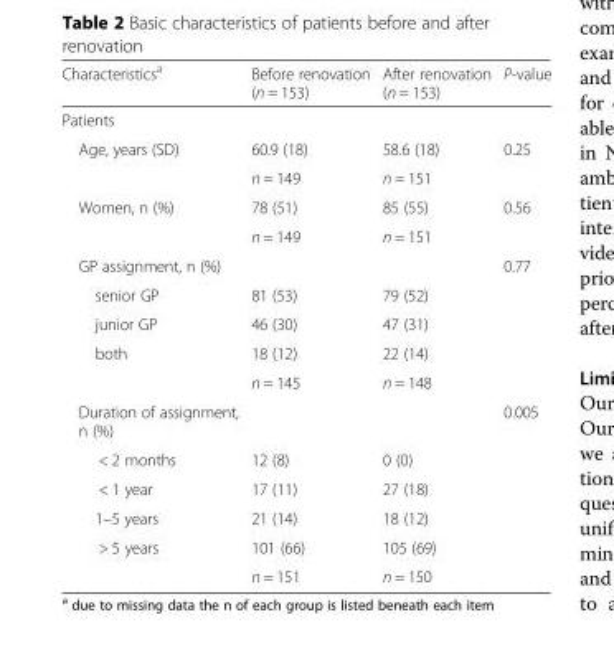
<table><thead><tr><td>Characteristics<sup>a</sup></td><td>Before renovation (n = 153)</td><td>After renovation (n = 153)</td><td>P-value</td></tr></thead><tbody><tr><td colspan="4">Patients</td></tr><tr><td rowspan="2">Age, years (SD)</td><td>60.9 (18)</td><td>58.6 (18)</td><td rowspan="2">0.25</td></tr><tr><td>n = 149</td><td>n = 151</td></tr><tr><td rowspan="2">Women, n (%)</td><td>78 (51)</td><td>85 (55)</td><td rowspan="2">0.56</td></tr><tr><td>n = 149</td><td>n = 151</td></tr><tr><td colspan="3">GP assignment, n (%)</td><td rowspan="5">0.77</td></tr><tr><td>senior GP</td><td>81 (53)</td><td>79 (52)</td></tr><tr><td>junior GP</td><td>46 (30)</td><td>47 (31)</td></tr><tr><td rowspan="2">both</td><td>18 (12)</td><td>22 (14)</td></tr><tr><td>n = 145</td><td>n = 148</td></tr><tr><td colspan="3">Duration of assignment, n (%)</td><td rowspan="6">0.005</td></tr><tr><td>&lt; 2 months</td><td>12 (8)</td><td>0 (0)</td></tr><tr><td>&lt; 1 year</td><td>17 (11)</td><td>27 (18)</td></tr><tr><td>1–5 years</td><td>21 (14)</td><td>18 (12)</td></tr><tr><td rowspan="2">&gt; 5 years</td><td>101 (66)</td><td>105 (69)</td></tr><tr><td>n = 151</td><td>n = 150</td></tr></tbody></table>